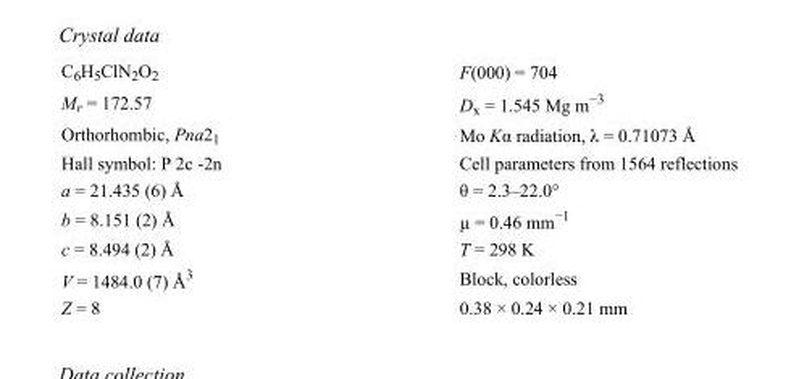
<table><tbody><tr><td>C<sub>6</sub>H<sub>5</sub>ClN<sub>2</sub>O<sub>2</sub></td><td>F(000) = 704</td></tr><tr><td>M<sub>r</sub> = 172.57</td><td>D<sub>x</sub> = 1.545 Mg m<sup>−3</sup></td></tr><tr><td>Orthorhombic, Pna2<sub>1</sub></td><td>Mo Kα radiation, λ = 0.71073 Å</td></tr><tr><td>Hall symbol: P 2c -2n</td><td>Cell parameters from 1564 reflections</td></tr><tr><td>a = 21.435 (6) Å</td><td>θ = 2.3–22.0°</td></tr><tr><td>b = 8.151 (2) Å</td><td>µ = 0.46 mm<sup>−1</sup></td></tr><tr><td>c = 8.494 (2) Å</td><td>T = 298 K</td></tr><tr><td>V = 1484.0 (7) Å<sup>3</sup></td><td>Block, colorless</td></tr><tr><td>Z = 8</td><td>0.38 × 0.24 × 0.21 mm</td></tr></tbody></table>